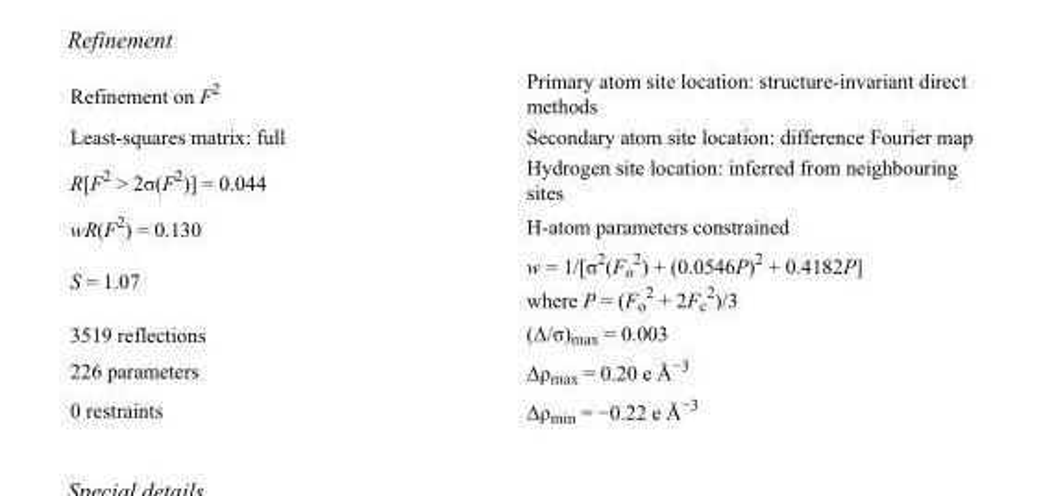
<table><tbody><tr><td>Refinement on F<sup>2</sup></td><td>Primary atom site location: structure-invariant direct methods</td></tr><tr><td>Least-squares matrix: full</td><td>Secondary atom site location: difference Fourier map</td></tr><tr><td>R[F<sup>2</sup> &gt; 2σ(F<sup>2</sup>)] = 0.044</td><td>Hydrogen site location: inferred from neighbouring sites</td></tr><tr><td>wR(F<sup>2</sup>) = 0.130</td><td>H-atom parameters constrained</td></tr><tr><td>S = 1.07</td><td>w = 1/[σ<sup>2</sup>(F<sub>o</sub> <sup>2</sup>) + (0.0546P)<sup>2</sup> + 0.4182P] where P = (F<sub>o</sub> <sup>2</sup> + 2F<sub>c</sub> <sup>2</sup>)/3</td></tr><tr><td>3519 reflections</td><td>(Δ/σ)<sub>max</sub> = 0.003</td></tr><tr><td>226 parameters</td><td>Δρ<sub>max</sub> = 0.20 e Å<sup>−3</sup></td></tr><tr><td>0 restraints</td><td>Δρ<sub>min</sub> = −0.22 e Å<sup>−3</sup></td></tr></tbody></table>